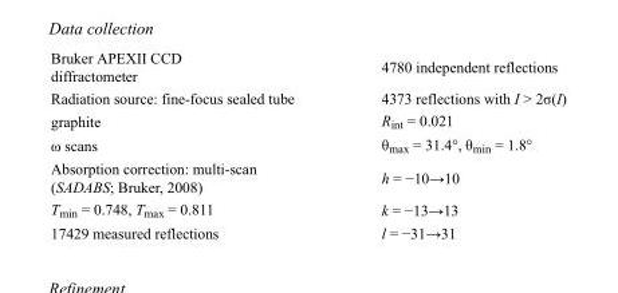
<table><tbody><tr><td>Bruker APEXII CCD diffractometer</td><td>4780 independent reflections</td></tr><tr><td>Radiation source: fine-focus sealed tube</td><td>4373 reflections with I &gt; 2σ(I)</td></tr><tr><td>graphite</td><td>R<sub>int</sub> = 0.021</td></tr><tr><td>ω scans</td><td>θ<sub>max</sub> = 31.4°, θ<sub>min</sub> = 1.8°</td></tr><tr><td>Absorption correction: multi-scan (SADABS; Bruker, 2008)</td><td>h = −10→10</td></tr><tr><td>T<sub>min</sub> = 0.748, T<sub>max</sub> = 0.811</td><td>k = −13→13</td></tr><tr><td>17429 measured reflections</td><td>l = −31→31</td></tr></tbody></table>